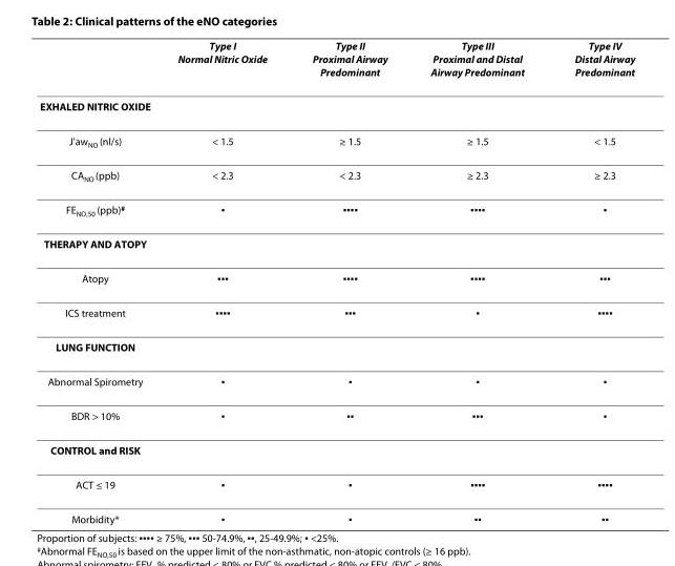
<table><thead><tr><td></td><td>Type I Normal Nitric Oxide</td><td>Type II Proximal Airway Predominant</td><td>Type III Proximal and Distal Airway Predominant</td><td>Type IV Distal Airway Predominant</td></tr></thead><tbody><tr><td colspan="5">EXHALED NITRIC OXIDE</td></tr><tr><td>J&#x27;aw<sub>NO</sub> (nl/s)</td><td>&lt; 1.5</td><td>≥ 1.5</td><td>≥ 1.5</td><td>&lt; 1.5</td></tr><tr><td>CA<sub>NO</sub> (ppb)</td><td>&lt; 2.3</td><td>&lt; 2.3</td><td>≥ 2.3</td><td>≥ 2.3</td></tr><tr><td>FE<sub>NO,50</sub> (ppb)<sup>#</sup></td><td>▪</td><td>▪▪▪▪</td><td>▪▪▪▪</td><td>▪</td></tr><tr><td colspan="5">THERAPY AND ATOPY</td></tr><tr><td>Atopy</td><td>▪▪▪</td><td>▪▪▪▪</td><td>▪▪▪▪</td><td>▪▪▪</td></tr><tr><td>ICS treatment</td><td>▪▪▪▪</td><td>▪▪▪</td><td>▪</td><td>▪▪▪▪</td></tr><tr><td colspan="5">LUNG FUNCTION</td></tr><tr><td>Abnormal Spirometry</td><td>▪</td><td>▪</td><td>▪</td><td>▪</td></tr><tr><td>BDR &gt; 10%</td><td>▪</td><td>▪▪</td><td>▪▪▪</td><td>▪</td></tr><tr><td colspan="5">CONTROL and RISK</td></tr><tr><td>ACT ≤ 19</td><td>▪</td><td>▪</td><td>▪▪▪▪</td><td>▪▪▪▪</td></tr><tr><td>Morbidity*</td><td>▪</td><td>▪</td><td>▪▪</td><td>▪▪</td></tr></tbody></table>